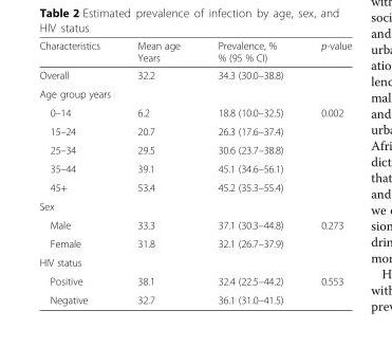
<table><thead><tr><td>Characteristics</td><td>Mean age Years</td><td>Prevalence, % % (95 % CI)</td><td>p-value</td></tr></thead><tbody><tr><td>Overall</td><td>32.2</td><td>34.3 (30.0–38.8)</td><td></td></tr><tr><td colspan="4">Age group years</td></tr><tr><td>0–14</td><td>6.2</td><td>18.8 (10.0–32.5)</td><td>0.002</td></tr><tr><td>15–24</td><td>20.7</td><td>26.3 (17.6–37.4)</td><td></td></tr><tr><td>25–34</td><td>29.5</td><td>30.6 (23.7–38.8)</td><td></td></tr><tr><td>35–44</td><td>39.1</td><td>45.1 (34.6–56.1)</td><td></td></tr><tr><td>45+</td><td>53.4</td><td>45.2 (35.3–55.4)</td><td></td></tr><tr><td colspan="4">Sex</td></tr><tr><td>Male</td><td>33.3</td><td>37.1 (30.3–44.8)</td><td>0.273</td></tr><tr><td>Female</td><td>31.8</td><td>32.1 (26.7–37.9)</td><td></td></tr><tr><td colspan="4">HIV status</td></tr><tr><td>Positive</td><td>38.1</td><td>32.4 (22.5–44.2)</td><td>0.553</td></tr><tr><td>Negative</td><td>32.7</td><td>36.1 (31.0–41.5)</td><td></td></tr></tbody></table>